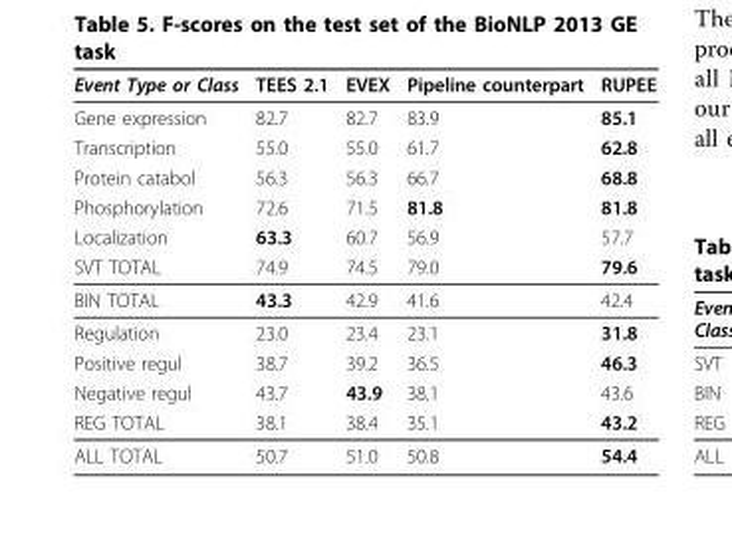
<table><thead><tr><td>Event Type or Class</td><td>TEES 2.1</td><td>EVEX</td><td>Pipeline counterpart</td><td>RUPEE</td></tr></thead><tbody><tr><td>Gene expression</td><td>82.7</td><td>82.7</td><td>83.9</td><td>85.1</td></tr><tr><td>Transcription</td><td>55.0</td><td>55.0</td><td>61.7</td><td>62.8</td></tr><tr><td>Protein catabol</td><td>56.3</td><td>56.3</td><td>66.7</td><td>68.8</td></tr><tr><td>Phosphorylation</td><td>72.6</td><td>71.5</td><td>81.8</td><td>81.8</td></tr><tr><td>Localization</td><td>63.3</td><td>60.7</td><td>56.9</td><td>57.7</td></tr><tr><td>SVT TOTAL</td><td>74.9</td><td>74.5</td><td>79.0</td><td>79.6</td></tr><tr><td>BIN TOTAL</td><td>43.3</td><td>42.9</td><td>41.6</td><td>42.4</td></tr><tr><td>Regulation</td><td>23.0</td><td>23.4</td><td>23.1</td><td>31.8</td></tr><tr><td>Positive regul</td><td>38.7</td><td>39.2</td><td>36.5</td><td>46.3</td></tr><tr><td>Negative regul</td><td>43.7</td><td>43.9</td><td>38.1</td><td>43.6</td></tr><tr><td>REG TOTAL</td><td>38.1</td><td>38.4</td><td>35.1</td><td>43.2</td></tr><tr><td>ALL TOTAL</td><td>50.7</td><td>51.0</td><td>50.8</td><td>54.4</td></tr></tbody></table>